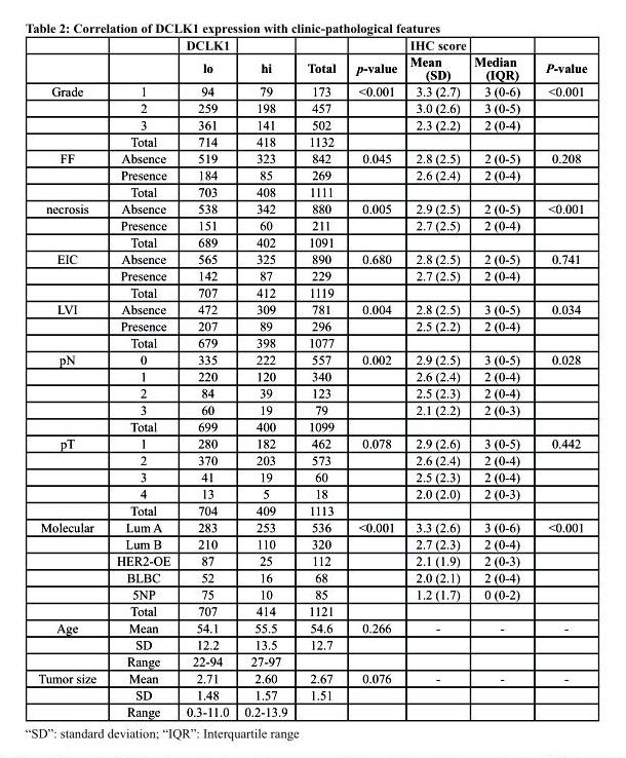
<table><thead><tr><td rowspan="2"></td><td rowspan="2"></td><td rowspan="2">dclK1 lo</td><td rowspan="2">hi</td><td rowspan="2">total</td><td rowspan="2">p-value</td><td rowspan="2">IHc score Mean (sd)</td><td rowspan="2">Median (IQr)</td><td rowspan="2">P-value</td></tr><tr></tr></thead><tbody><tr><td rowspan="4">Grade</td><td>1</td><td>94</td><td>79</td><td>173</td><td>&lt;0.001</td><td>3.3 (2.7)</td><td>3 (0-6)</td><td>&lt;0.001</td></tr><tr><td>2</td><td>259</td><td>198</td><td>457</td><td></td><td>3.0 (2.6)</td><td>3 (0-5)</td><td></td></tr><tr><td>3</td><td>361</td><td>141</td><td>502</td><td></td><td>2.3 (2.2)</td><td>2 (0-4)</td><td></td></tr><tr><td>Total</td><td>714</td><td>418</td><td>1132</td><td></td><td></td><td></td><td></td></tr><tr><td rowspan="3">FF</td><td>Absence</td><td>519</td><td>323</td><td>842</td><td>0.045</td><td>2.8 (2.5)</td><td>2 (0-5)</td><td>0.208</td></tr><tr><td>Presence</td><td>184</td><td>85</td><td>269</td><td></td><td>2.6 (2.4)</td><td>2 (0-4)</td><td></td></tr><tr><td>Total</td><td>703</td><td>408</td><td>1111</td><td></td><td></td><td></td><td></td></tr><tr><td rowspan="3">necrosis</td><td>Absence</td><td>538</td><td>342</td><td>880</td><td>0.005</td><td>2.9 (2.5)</td><td>2 (0-5)</td><td>&lt;0.001</td></tr><tr><td>Presence</td><td>151</td><td>60</td><td>211</td><td></td><td>2.7 (2.5)</td><td>2 (0-4)</td><td></td></tr><tr><td>Total</td><td>689</td><td>402</td><td>1091</td><td></td><td></td><td></td><td></td></tr><tr><td rowspan="3">EIC</td><td>Absence</td><td>565</td><td>325</td><td>890</td><td>0.680</td><td>2.8 (2.5)</td><td>2 (0-5)</td><td>0.741</td></tr><tr><td>Presence</td><td>142</td><td>87</td><td>229</td><td></td><td>2.7 (2.5)</td><td>2 (0-4)</td><td></td></tr><tr><td>Total</td><td>707</td><td>412</td><td>1119</td><td></td><td></td><td></td><td></td></tr><tr><td rowspan="3">LVI</td><td>Absence</td><td>472</td><td>309</td><td>781</td><td>0.004</td><td>2.8 (2.5)</td><td>3 (0-5)</td><td>0.034</td></tr><tr><td>Presence</td><td>207</td><td>89</td><td>296</td><td></td><td>2.5 (2.2)</td><td>2 (0-4)</td><td></td></tr><tr><td>Total</td><td>679</td><td>398</td><td>1077</td><td></td><td></td><td></td><td></td></tr><tr><td rowspan="5">pN</td><td>0</td><td>335</td><td>222</td><td>557</td><td>0.002</td><td>2.9 (2.5)</td><td>3 (0-5)</td><td>0.028</td></tr><tr><td>1</td><td>220</td><td>120</td><td>340</td><td></td><td>2.6 (2.4)</td><td>2 (0-4)</td><td></td></tr><tr><td>2</td><td>84</td><td>39</td><td>123</td><td></td><td>2.5 (2.3)</td><td>2 (0-4)</td><td></td></tr><tr><td>3</td><td>60</td><td>19</td><td>79</td><td></td><td>2.1 (2.2)</td><td>2 (0-3)</td><td></td></tr><tr><td>Total</td><td>699</td><td>400</td><td>1099</td><td></td><td></td><td></td><td></td></tr><tr><td rowspan="5">pT</td><td>1</td><td>280</td><td>182</td><td>462</td><td>0.078</td><td>2.9 (2.6)</td><td>3 (0-5)</td><td>0.442</td></tr><tr><td>2</td><td>370</td><td>203</td><td>573</td><td></td><td>2.6 (2.4)</td><td>2 (0-4)</td><td></td></tr><tr><td>3</td><td>41</td><td>19</td><td>60</td><td></td><td>2.5 (2.3)</td><td>2 (0-4)</td><td></td></tr><tr><td>4</td><td>13</td><td>5</td><td>18</td><td></td><td>2.0 (2.0)</td><td>2 (0-3)</td><td></td></tr><tr><td>Total</td><td>704</td><td>409</td><td>1113</td><td></td><td></td><td></td><td></td></tr><tr><td rowspan="6">Molecular</td><td>Lum A</td><td>283</td><td>253</td><td>536</td><td>&lt;0.001</td><td>3.3 (2.6)</td><td>3 (0-6)</td><td>&lt;0.001</td></tr><tr><td>Lum B</td><td>210</td><td>110</td><td>320</td><td></td><td>2.7 (2.3)</td><td>2 (0-4)</td><td></td></tr><tr><td>HER2-OE</td><td>87</td><td>25</td><td>112</td><td></td><td>2.1 (1.9)</td><td>2 (0-3)</td><td></td></tr><tr><td>BLBC</td><td>52</td><td>16</td><td>68</td><td></td><td>2.0 (2.1)</td><td>2 (0-4)</td><td></td></tr><tr><td>5NP</td><td>75</td><td>10</td><td>85</td><td></td><td>1.2 (1.7)</td><td>0 (0-2)</td><td></td></tr><tr><td>Total</td><td>707</td><td>414</td><td>1121</td><td></td><td></td><td></td><td></td></tr><tr><td rowspan="3">Age</td><td>Mean</td><td>54.1</td><td>55.5</td><td>54.6</td><td>0.266</td><td>-</td><td>-</td><td>-</td></tr><tr><td>SD</td><td>12.2</td><td>13.5</td><td>12.7</td><td></td><td></td><td></td><td></td></tr><tr><td>Range</td><td>22-94</td><td>27-97</td><td></td><td></td><td></td><td></td><td></td></tr><tr><td rowspan="3">Tumor size</td><td>Mean</td><td>2.71</td><td>2.60</td><td>2.67</td><td>0.076</td><td>-</td><td>-</td><td>-</td></tr><tr><td>SD</td><td>1.48</td><td>1.57</td><td>1.51</td><td></td><td></td><td></td><td></td></tr><tr><td>Range</td><td>0.3-11.0</td><td>0.2-13.9</td><td></td><td></td><td></td><td></td><td></td></tr></tbody></table>